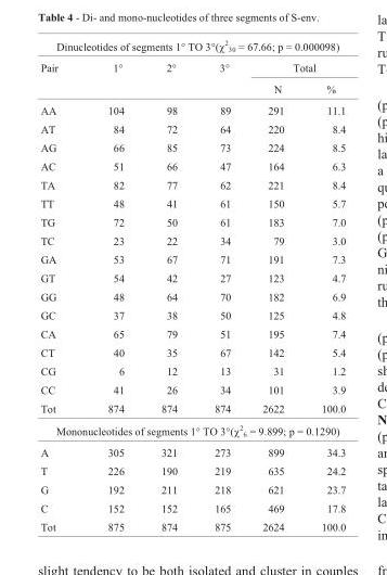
<table><thead><tr><td colspan="6">Dinucleotides of segments 1° TO 3°(χ<sup>2</sup> <sub>30</sub> = 67.66; p = 0.000098)</td></tr><tr><td rowspan="2">Pair</td><td rowspan="2">1°</td><td rowspan="2">2°</td><td rowspan="2">3°</td><td colspan="2">Total</td></tr><tr><td>N</td><td>%</td></tr></thead><tbody><tr><td>AA</td><td>104</td><td>98</td><td>89</td><td>291</td><td>11.1</td></tr><tr><td>AT</td><td>84</td><td>72</td><td>64</td><td>220</td><td>8.4</td></tr><tr><td>AG</td><td>66</td><td>85</td><td>73</td><td>224</td><td>8.5</td></tr><tr><td>AC</td><td>51</td><td>66</td><td>47</td><td>164</td><td>6.3</td></tr><tr><td>TA</td><td>82</td><td>77</td><td>62</td><td>221</td><td>8.4</td></tr><tr><td>TT</td><td>48</td><td>41</td><td>61</td><td>150</td><td>5.7</td></tr><tr><td>TG</td><td>72</td><td>50</td><td>61</td><td>183</td><td>7.0</td></tr><tr><td>TC</td><td>23</td><td>22</td><td>34</td><td>79</td><td>3.0</td></tr><tr><td>GA</td><td>53</td><td>67</td><td>71</td><td>191</td><td>7.3</td></tr><tr><td>GT</td><td>54</td><td>42</td><td>27</td><td>123</td><td>4.7</td></tr><tr><td>GG</td><td>48</td><td>64</td><td>70</td><td>182</td><td>6.9</td></tr><tr><td>GC</td><td>37</td><td>38</td><td>50</td><td>125</td><td>4.8</td></tr><tr><td>CA</td><td>65</td><td>79</td><td>51</td><td>195</td><td>7.4</td></tr><tr><td>CT</td><td>40</td><td>35</td><td>67</td><td>142</td><td>5.4</td></tr><tr><td>CG</td><td>6</td><td>12</td><td>13</td><td>31</td><td>1.2</td></tr><tr><td>CC</td><td>41</td><td>26</td><td>34</td><td>101</td><td>3.9</td></tr><tr><td>Tot</td><td>874</td><td>874</td><td>874</td><td>2622</td><td>100.0</td></tr><tr><td colspan="6">Mononucleotides of segments 1° TO 3°(χ<sup>2</sup> <sub>6</sub> = 9.899; p = 0.1290)</td></tr><tr><td>A</td><td>305</td><td>321</td><td>273</td><td>899</td><td>34.3</td></tr><tr><td>T</td><td>226</td><td>190</td><td>219</td><td>635</td><td>24.2</td></tr><tr><td>G</td><td>192</td><td>211</td><td>218</td><td>621</td><td>23.7</td></tr><tr><td>C</td><td>152</td><td>152</td><td>165</td><td>469</td><td>17.8</td></tr><tr><td>Tot</td><td>875</td><td>874</td><td>875</td><td>2624</td><td>100.0</td></tr></tbody></table>